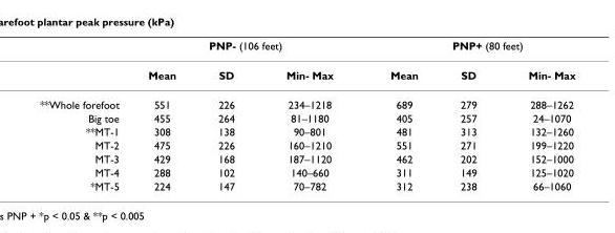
<table><thead><tr><td rowspan="2"></td><td colspan="3">PNP- (106 feet)</td><td colspan="3">PNP+ (80 feet)</td></tr><tr><td>Mean</td><td>SD</td><td>Min- Max</td><td>Mean</td><td>SD</td><td>Min- Max</td></tr></thead><tbody><tr><td>**Whole forefoot</td><td>551</td><td>226</td><td>234–1218</td><td>689</td><td>279</td><td>288–1262</td></tr><tr><td>Big toe</td><td>455</td><td>264</td><td>81–1180</td><td>405</td><td>257</td><td>24–1070</td></tr><tr><td>**MT-1</td><td>308</td><td>138</td><td>90–801</td><td>481</td><td>313</td><td>132–1260</td></tr><tr><td>MT-2</td><td>475</td><td>226</td><td>160–1210</td><td>551</td><td>271</td><td>199–1220</td></tr><tr><td>MT-3</td><td>429</td><td>168</td><td>187–1120</td><td>462</td><td>202</td><td>152–1000</td></tr><tr><td>MT-4</td><td>288</td><td>102</td><td>140–660</td><td>311</td><td>149</td><td>125–1020</td></tr><tr><td>*MT-5</td><td>224</td><td>147</td><td>70–782</td><td>312</td><td>238</td><td>66–1060</td></tr></tbody></table>